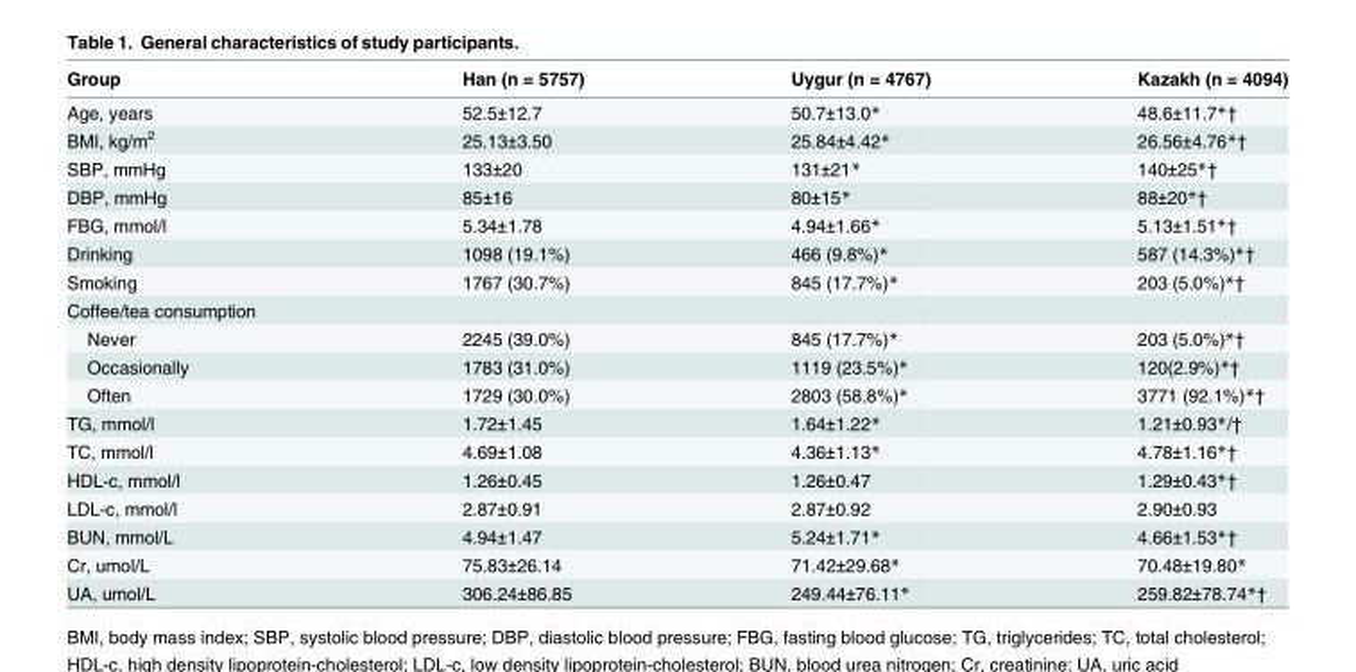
<table><thead><tr><td>Group</td><td>Han (n = 5757)</td><td>Uygur (n = 4767)</td><td>Kazakh (n = 4094)</td></tr></thead><tbody><tr><td>Age, years</td><td>52.5±12.7</td><td>50.7±13.0*</td><td>48.6±11.7*†</td></tr><tr><td>BMI, kg/m<sup>2</sup></td><td>25.13±3.50</td><td>25.84±4.42*</td><td>26.56±4.76*†</td></tr><tr><td>SBP, mmHg</td><td>133±20</td><td>131±21*</td><td>140±25*†</td></tr><tr><td>DBP, mmHg</td><td>85±16</td><td>80±15*</td><td>88±20*†</td></tr><tr><td>FBG, mmol/l</td><td>5.34±1.78</td><td>4.94±1.66*</td><td>5.13±1.51*†</td></tr><tr><td>Drinking</td><td>1098 (19.1%)</td><td>466 (9.8%)*</td><td>587 (14.3%)*†</td></tr><tr><td>Smoking</td><td>1767 (30.7%)</td><td>845 (17.7%)*</td><td>203 (5.0%)*†</td></tr><tr><td colspan="4">Coffee/tea consumption</td></tr><tr><td>Never</td><td>2245 (39.0%)</td><td>845 (17.7%)*</td><td>203 (5.0%)*†</td></tr><tr><td>Occasionally</td><td>1783 (31.0%)</td><td>1119 (23.5%)*</td><td>120(2.9%)*†</td></tr><tr><td>Often</td><td>1729 (30.0%)</td><td>2803 (58.8%)*</td><td>3771 (92.1%)*†</td></tr><tr><td>TG, mmol/l</td><td>1.72±1.45</td><td>1.64±1.22*</td><td>1.21±0.93*/†</td></tr><tr><td>TC, mmol/l</td><td>4.69±1.08</td><td>4.36±1.13*</td><td>4.78±1.16*†</td></tr><tr><td>HDL-c, mmol/l</td><td>1.26±0.45</td><td>1.26±0.47</td><td>1.29±0.43*†</td></tr><tr><td>LDL-c, mmol/l</td><td>2.87±0.91</td><td>2.87±0.92</td><td>2.90±0.93</td></tr><tr><td>BUN, mmol/L</td><td>4.94±1.47</td><td>5.24±1.71*</td><td>4.66±1.53*†</td></tr><tr><td>Cr, umol/L</td><td>75.83±26.14</td><td>71.42±29.68*</td><td>70.48±19.80*</td></tr><tr><td>UA, umol/L</td><td>306.24±86.85</td><td>249.44±76.11*</td><td>259.82±78.74*†</td></tr></tbody></table>